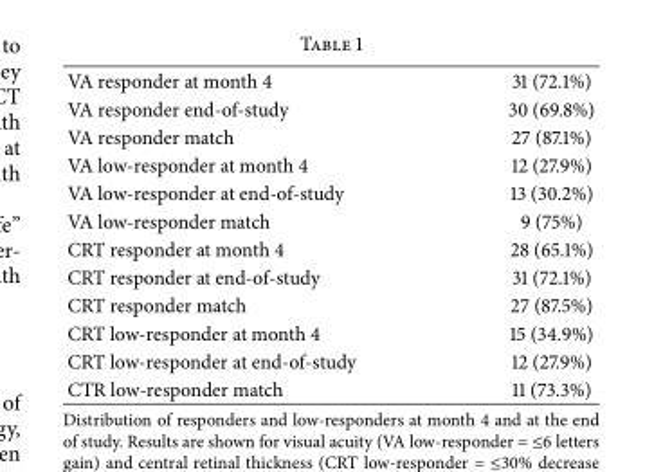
<table><tbody><tr><td>VA responder at month 4</td><td>31 (72.1%)</td></tr><tr><td>VA responder end-of-study</td><td>30 (69.8%)</td></tr><tr><td>VA responder match</td><td>27 (87.1%)</td></tr><tr><td>VA low-responder at month 4</td><td>12 (27.9%)</td></tr><tr><td>VA low-responder at end-of-study</td><td>13 (30.2%)</td></tr><tr><td>VA low-responder match</td><td>9 (75%)</td></tr><tr><td>CRT responder at month 4</td><td>28 (65.1%)</td></tr><tr><td>CRT responder at end-of-study</td><td>31 (72.1%)</td></tr><tr><td>CRT responder match</td><td>27 (87.5%)</td></tr><tr><td>CRT low-responder at month 4</td><td>15 (34.9%)</td></tr><tr><td>CRT low-responder at end-of-study</td><td>12 (27.9%)</td></tr><tr><td>CTR low-responder match</td><td>11 (73.3%)</td></tr></tbody></table>